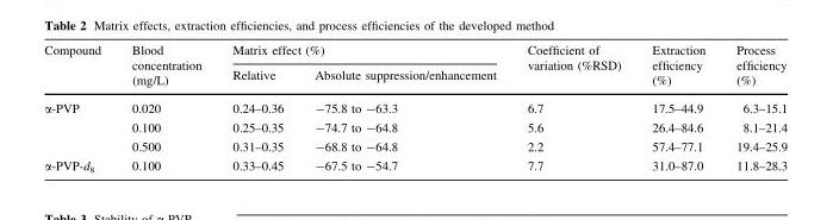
<table><thead><tr><td rowspan="2">Compound</td><td rowspan="2">Blood concentration (mg/L)</td><td colspan="2">Matrix effect (%)</td><td rowspan="2">Coefficient of variation (%RSD)</td><td rowspan="2">Extraction efficiency (%)</td><td rowspan="2">Process efficiency (%)</td></tr><tr><td>Relative</td><td>Absolute suppression/enhancement</td></tr></thead><tbody><tr><td rowspan="3">α-PVP</td><td>0.020</td><td>0.24–0.36</td><td>-75.8 to -63.3</td><td>6.7</td><td>17.5–44.9</td><td>6.3–15.1</td></tr><tr><td>0.100</td><td>0.25–0.35</td><td>-74.7 to -64.8</td><td>5.6</td><td>26.4–84.6</td><td>8.1–21.4</td></tr><tr><td>0.500</td><td>0.31–0.35</td><td>-68.8 to -64.8</td><td>2.2</td><td>57.4–77.1</td><td>19.4–25.9</td></tr><tr><td>α-PVP-d<sub>8</sub></td><td>0.100</td><td>0.33–0.45</td><td>-67.5 to -54.7</td><td>7.7</td><td>31.0–87.0</td><td>11.8–28.3</td></tr></tbody></table>